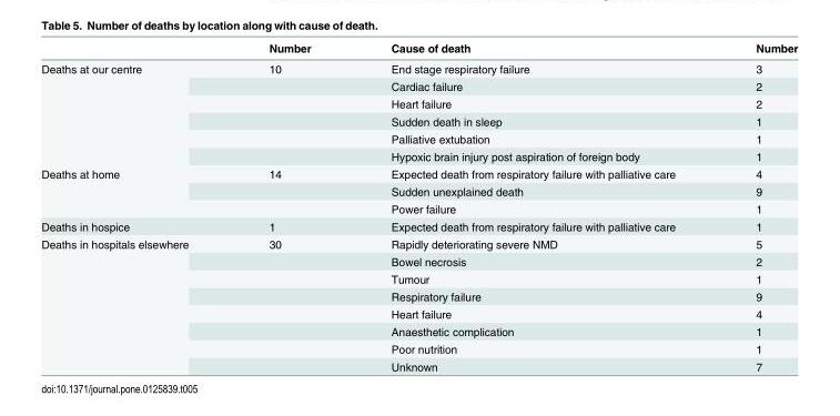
<table><thead><tr><td></td><td>Number</td><td>Cause of death</td><td>Number</td></tr></thead><tbody><tr><td rowspan="6">Deaths at our centre</td><td>10</td><td>End stage respiratory failure</td><td>3</td></tr><tr><td></td><td>Cardiac failure</td><td>2</td></tr><tr><td></td><td>Heart failure</td><td>2</td></tr><tr><td></td><td>Sudden death in sleep</td><td>1</td></tr><tr><td></td><td>Palliative extubation</td><td>1</td></tr><tr><td></td><td>Hypoxic brain injury post aspiration of foreign body</td><td>1</td></tr><tr><td rowspan="3">Deaths at home</td><td>14</td><td>Expected death from respiratory failure with palliative care</td><td>4</td></tr><tr><td></td><td>Sudden unexplained death</td><td>9</td></tr><tr><td></td><td>Power failure</td><td>1</td></tr><tr><td>Deaths in hospice</td><td>1</td><td>Expected death from respiratory failure with palliative care</td><td>1</td></tr><tr><td rowspan="8">Deaths in hospitals elsewhere</td><td>30</td><td>Rapidly deteriorating severe NMD</td><td>5</td></tr><tr><td></td><td>Bowel necrosis</td><td>2</td></tr><tr><td></td><td>Tumour</td><td>1</td></tr><tr><td></td><td>Respiratory failure</td><td>9</td></tr><tr><td></td><td>Heart failure</td><td>4</td></tr><tr><td></td><td>Anaesthetic complication</td><td>1</td></tr><tr><td></td><td>Poor nutrition</td><td>1</td></tr><tr><td></td><td>Unknown</td><td>7</td></tr></tbody></table>